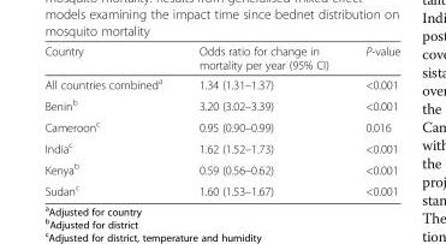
<table><thead><tr><td>Country</td><td>Odds ratio for change in mortality per year (95% CI)</td><td>P-value</td></tr></thead><tbody><tr><td>All countries combined<sup>a</sup></td><td>1.34 (1.31–1.37)</td><td>&lt;0.001</td></tr><tr><td>Benin<sup>b</sup></td><td>3.20 (3.02–3.39)</td><td>&lt;0.001</td></tr><tr><td>Cameroon<sup>c</sup></td><td>0.95 (0.90–0.99)</td><td>0.016</td></tr><tr><td>India<sup>c</sup></td><td>1.62 (1.52–1.73)</td><td>&lt;0.001</td></tr><tr><td>Kenya<sup>b</sup></td><td>0.59 (0.56–0.62)</td><td>&lt;0.001</td></tr><tr><td>Sudan<sup>c</sup></td><td>1.60 (1.53–1.67)</td><td>&lt;0.001</td></tr></tbody></table>